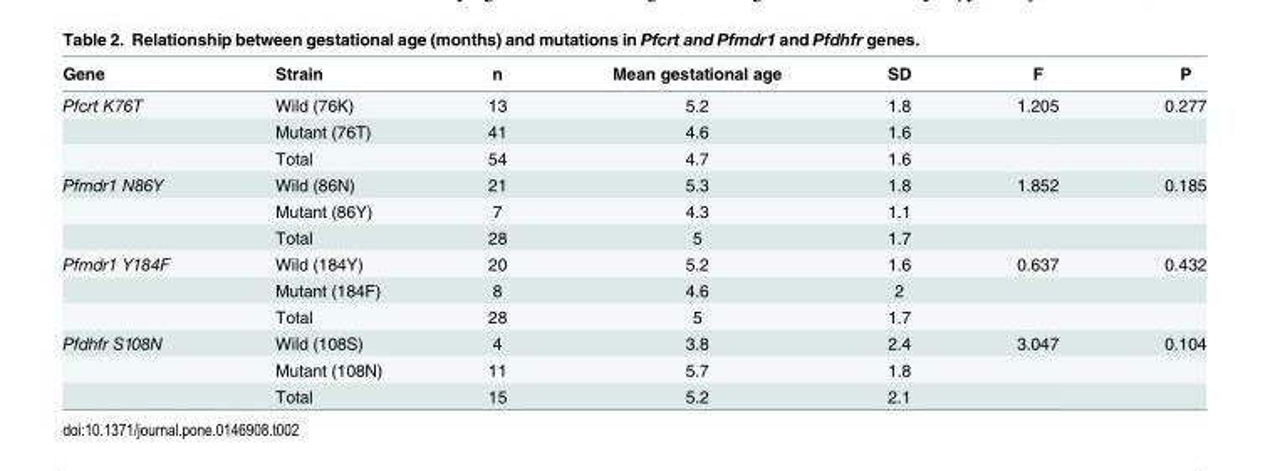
<table><thead><tr><td>Gene</td><td>Strain</td><td>n</td><td>Mean gestational age</td><td>SD</td><td>F</td><td>P</td></tr></thead><tbody><tr><td rowspan="3">Pfcrt K76T</td><td>Wild (76K)</td><td>13</td><td>5.2</td><td>1.8</td><td>1.205</td><td>0.277</td></tr><tr><td>Mutant (76T)</td><td>41</td><td>4.6</td><td>1.6</td><td></td><td></td></tr><tr><td>Total</td><td>54</td><td>4.7</td><td>1.6</td><td></td><td></td></tr><tr><td rowspan="3">Pfmdr1 N86Y</td><td>Wild (86N)</td><td>21</td><td>5.3</td><td>1.8</td><td>1.852</td><td>0.185</td></tr><tr><td>Mutant (86Y)</td><td>7</td><td>4.3</td><td>1.1</td><td></td><td></td></tr><tr><td>Total</td><td>28</td><td>5</td><td>1.7</td><td></td><td></td></tr><tr><td rowspan="3">Pfmdr1 Y184F</td><td>Wild (184Y)</td><td>20</td><td>5.2</td><td>1.6</td><td>0.637</td><td>0.432</td></tr><tr><td>Mutant (184F)</td><td>8</td><td>4.6</td><td>2</td><td></td><td></td></tr><tr><td>Total</td><td>28</td><td>5</td><td>1.7</td><td></td><td></td></tr><tr><td rowspan="3">Pfdhfr S108N</td><td>Wild (108S)</td><td>4</td><td>3.8</td><td>2.4</td><td>3.047</td><td>0.104</td></tr><tr><td>Mutant (108N)</td><td>11</td><td>5.7</td><td>1.8</td><td></td><td></td></tr><tr><td>Total</td><td>15</td><td>5.2</td><td>2.1</td><td></td><td></td></tr></tbody></table>